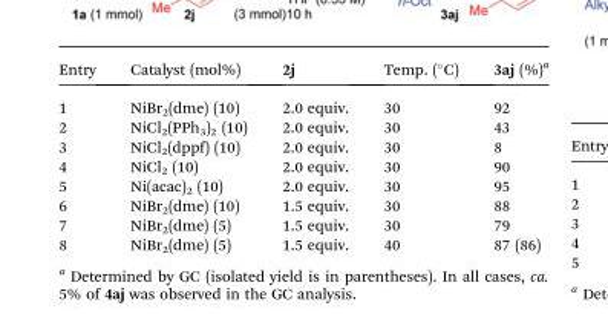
<table><thead><tr><td>Entry</td><td>Catalyst (mol%)</td><td>2j</td><td>Temp. (°C)</td><td>3aj (%)<sup>a</sup></td></tr></thead><tbody><tr><td>1</td><td>NiBr<sub>2</sub>(dme) (10)</td><td>2.0 equiv.</td><td>30</td><td>92</td></tr><tr><td>2</td><td>NiCl<sub>2</sub>(PPh<sub>3</sub>)<sub>2</sub> (10)</td><td>2.0 equiv.</td><td>30</td><td>43</td></tr><tr><td>3</td><td>NiCl<sub>2</sub>(dppf) (10)</td><td>2.0 equiv.</td><td>30</td><td>8</td></tr><tr><td>4</td><td>NiCl<sub>2</sub> (10)</td><td>2.0 equiv.</td><td>30</td><td>90</td></tr><tr><td>5</td><td>Ni(acac)<sub>2</sub> (10)</td><td>2.0 equiv.</td><td>30</td><td>95</td></tr><tr><td>6</td><td>NiBr<sub>2</sub>(dme) (10)</td><td>1.5 equiv.</td><td>30</td><td>88</td></tr><tr><td>7</td><td>NiBr<sub>2</sub>(dme) (5)</td><td>1.5 equiv.</td><td>30</td><td>79</td></tr><tr><td>8</td><td>NiBr<sub>2</sub>(dme) (5)</td><td>1.5 equiv.</td><td>40</td><td>87 (86)</td></tr></tbody></table>